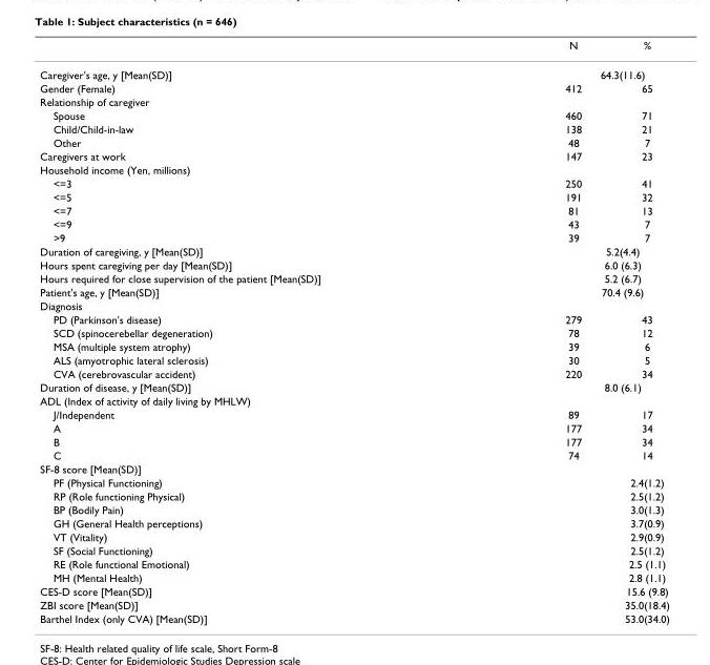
<table><thead><tr><td></td><td>N</td><td>%</td></tr></thead><tbody><tr><td>Caregiver&#x27;s age, y [Mean(SD)]</td><td colspan="2">64.3(11.6)</td></tr><tr><td>Gender (Female)</td><td>412</td><td>65</td></tr><tr><td colspan="3">Relationship of caregiver</td></tr><tr><td>Spouse</td><td>460</td><td>71</td></tr><tr><td>Child/Child-in-law</td><td>138</td><td>21</td></tr><tr><td>Other</td><td>48</td><td>7</td></tr><tr><td>Caregivers at work</td><td>147</td><td>23</td></tr><tr><td colspan="3">Household income (Yen, millions)</td></tr><tr><td>&lt;=3</td><td>250</td><td>41</td></tr><tr><td>&lt;=5</td><td>191</td><td>32</td></tr><tr><td>&lt;=7</td><td>81</td><td>13</td></tr><tr><td>&lt;=9</td><td>43</td><td>7</td></tr><tr><td>&gt;9</td><td>39</td><td>7</td></tr><tr><td>Duration of caregiving, y [Mean(SD)]</td><td colspan="2">5.2(4.4)</td></tr><tr><td>Hours spent caregiving per day [Mean(SD)]</td><td colspan="2">6.0 (6.3)</td></tr><tr><td>Hours required for close supervision of the patient [Mean(SD)]</td><td colspan="2">5.2 (6.7)</td></tr><tr><td>Patient&#x27;s age, y [Mean(SD)]</td><td colspan="2">70.4 (9.6)</td></tr><tr><td colspan="3">Diagnosis</td></tr><tr><td>PD (Parkinson&#x27;s disease)</td><td>279</td><td>43</td></tr><tr><td>SCD (spinocerebellar degeneration)</td><td>78</td><td>12</td></tr><tr><td>MSA (multiple system atrophy)</td><td>39</td><td>6</td></tr><tr><td>ALS (amyotrophic lateral sclerosis)</td><td>30</td><td>5</td></tr><tr><td>CVA (cerebrovascular accident)</td><td>220</td><td>34</td></tr><tr><td>Duration of disease, y [Mean(SD)]</td><td colspan="2">8.0 (6.1)</td></tr><tr><td colspan="3">ADL (Index of activity of daily living by MHLW)</td></tr><tr><td>J/Independent</td><td>89</td><td>17</td></tr><tr><td>A</td><td>177</td><td>34</td></tr><tr><td>B</td><td>177</td><td>34</td></tr><tr><td>C</td><td>74</td><td>14</td></tr><tr><td colspan="3">SF-8 score [Mean(SD)]</td></tr><tr><td>PF (Physical Functioning)</td><td></td><td>2.4(1.2)</td></tr><tr><td>RP (Role functioning Physical)</td><td></td><td>2.5(1.2)</td></tr><tr><td>BP (Bodily Pain)</td><td></td><td>3.0(1.3)</td></tr><tr><td>GH (General Health perceptions)</td><td></td><td>3.7(0.9)</td></tr><tr><td>VT (Vitality)</td><td></td><td>2.9(0.9)</td></tr><tr><td>SF (Social Functioning)</td><td></td><td>2.5(1.2)</td></tr><tr><td>RE (Role functional Emotional)</td><td></td><td>2.5 (1.1)</td></tr><tr><td>MH (Mental Health)</td><td></td><td>2.8 (1.1)</td></tr><tr><td>CES-D score [Mean(SD)]</td><td></td><td>15.6 (9.8)</td></tr><tr><td>ZBI score [Mean(SD)]</td><td></td><td>35.0(18.4)</td></tr><tr><td>Barthel Index (only CVA) [Mean(SD)]</td><td></td><td>53.0(34.0)</td></tr></tbody></table>